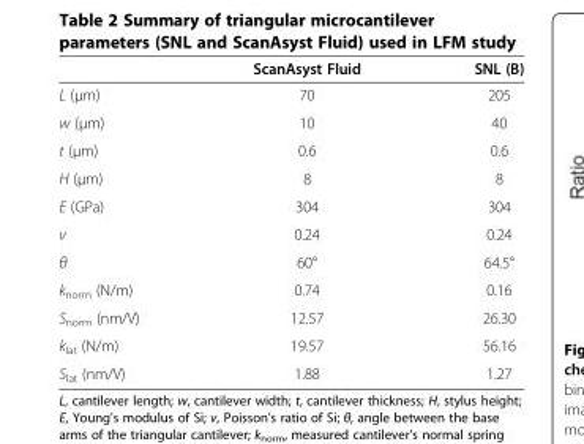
<table><thead><tr><td></td><td>ScanAsyst Fluid</td><td>SNL (B)</td></tr></thead><tbody><tr><td>L (μm)</td><td>70</td><td>205</td></tr><tr><td>w (μm)</td><td>10</td><td>40</td></tr><tr><td>t (μm)</td><td>0.6</td><td>0.6</td></tr><tr><td>H (μm)</td><td>8</td><td>8</td></tr><tr><td>E (GPa)</td><td>304</td><td>304</td></tr><tr><td>ν</td><td>0.24</td><td>0.24</td></tr><tr><td>θ</td><td>60°</td><td>64.5°</td></tr><tr><td>k<sub>norm</sub> (N/m)</td><td>0.74</td><td>0.16</td></tr><tr><td>S<sub>norm</sub> (nm/V)</td><td>12.57</td><td>26.30</td></tr><tr><td>k<sub>lat</sub> (N/m)</td><td>19.57</td><td>56.16</td></tr><tr><td>S<sub>lat</sub> (nm/V)</td><td>1.88</td><td>1.27</td></tr></tbody></table>